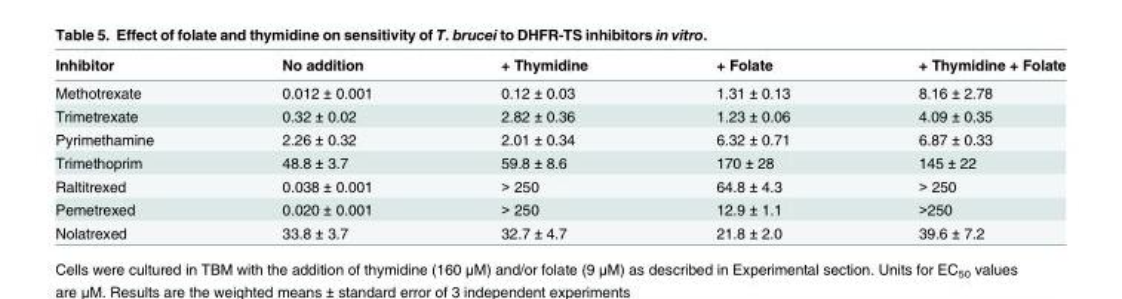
<table><thead><tr><td>Inhibitor</td><td>No addition</td><td>+ Thymidine</td><td>+ Folate</td><td>+ Thymidine + Folate</td></tr></thead><tbody><tr><td>Methotrexate</td><td>0.012 ± 0.001</td><td>0.12 ± 0.03</td><td>1.31 ± 0.13</td><td>8.16 ± 2.78</td></tr><tr><td>Trimetrexate</td><td>0.32 ± 0.02</td><td>2.82 ± 0.36</td><td>1.23 ± 0.06</td><td>4.09 ± 0.35</td></tr><tr><td>Pyrimethamine</td><td>2.26 ± 0.32</td><td>2.01 ± 0.34</td><td>6.32 ± 0.71</td><td>6.87 ± 0.33</td></tr><tr><td>Trimethoprim</td><td>48.8 ± 3.7</td><td>59.8 ± 8.6</td><td>170 ± 28</td><td>145 ± 22</td></tr><tr><td>Raltitrexed</td><td>0.038 ± 0.001</td><td>&gt; 250</td><td>64.8 ± 4.3</td><td>&gt; 250</td></tr><tr><td>Pemetrexed</td><td>0.020 ± 0.001</td><td>&gt; 250</td><td>12.9 ± 1.1</td><td>&gt;250</td></tr><tr><td>Nolatrexed</td><td>33.8 ± 3.7</td><td>32.7 ± 4.7</td><td>21.8 ± 2.0</td><td>39.6 ± 7.2</td></tr></tbody></table>